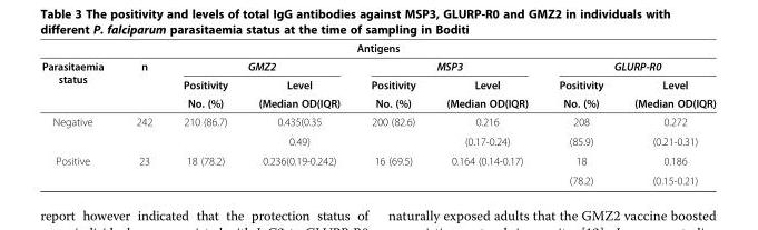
<table><thead><tr><td colspan="8">Antigens</td></tr><tr><td rowspan="3">Parasitaemia status</td><td rowspan="3">n</td><td colspan="2">GMZ2</td><td colspan="2">MSP3</td><td colspan="2">GLURP-R0</td></tr><tr><td rowspan="2">Positivity No. (%)</td><td rowspan="2">Level (Median OD(IQR)</td><td rowspan="2">Positivity No. (%)</td><td rowspan="2">Level (Median OD(IQR)</td><td rowspan="2">Positivity No. (%)</td><td rowspan="2">Level (Median OD(IQR)</td></tr><tr></tr></thead><tbody><tr><td rowspan="2">Negative</td><td rowspan="2">242</td><td rowspan="2">210 (86.7)</td><td>0.435(0.35</td><td>200 (82.6)</td><td>0.216</td><td>208</td><td>0.272</td></tr><tr><td>0.49)</td><td></td><td>(0.17-0.24)</td><td>(85.9)</td><td>(0.21-0.31)</td></tr><tr><td rowspan="2">Positive</td><td rowspan="2">23</td><td rowspan="2">18 (78.2)</td><td rowspan="2">0.236(0.19-0.242)</td><td rowspan="2">16 (69.5)</td><td rowspan="2">0.164 (0.14-0.17)</td><td>18</td><td>0.186</td></tr><tr><td>(78.2)</td><td>(0.15-0.21)</td></tr></tbody></table>